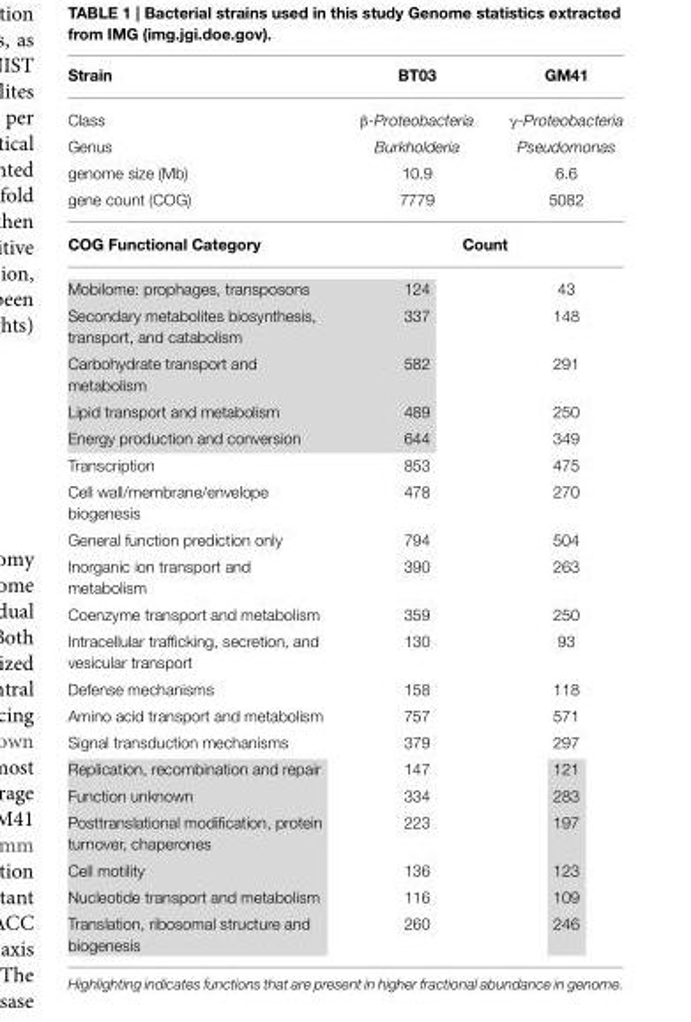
<table><thead><tr><td>Strain</td><td>BT03</td><td>GM41</td></tr></thead><tbody><tr><td>Class</td><td>β-Proteobacteria</td><td>γ-Proteobacteria</td></tr><tr><td>Genus</td><td>Burkholderia</td><td>Pseudomonas</td></tr><tr><td>genome size (Mb)</td><td>10.9</td><td>6.6</td></tr><tr><td>gene count (COG)</td><td>7779</td><td>5082</td></tr><tr><td>COG Functional Category</td><td colspan="2">Count</td></tr><tr><td>Mobilome: prophages, transposons</td><td>124</td><td>43</td></tr><tr><td>Secondary metabolites biosynthesis, transport, and catabolism</td><td>337</td><td>148</td></tr><tr><td>Carbohydrate transport and metabolism</td><td>582</td><td>291</td></tr><tr><td>Lipid transport and metabolism</td><td>489</td><td>250</td></tr><tr><td>Energy production and conversion</td><td>644</td><td>349</td></tr><tr><td>Transcription</td><td>853</td><td>475</td></tr><tr><td>Cell wall/membrane/envelope biogenesis</td><td>478</td><td>270</td></tr><tr><td>General function prediction only</td><td>794</td><td>504</td></tr><tr><td>Inorganic ion transport and metabolism</td><td>390</td><td>263</td></tr><tr><td>Coenzyme transport and metabolism</td><td>359</td><td>250</td></tr><tr><td>Intracellular trafficking, secretion, and vesicular transport</td><td>130</td><td>93</td></tr><tr><td>Defense mechanisms</td><td>158</td><td>118</td></tr><tr><td>Amino acid transport and metabolism</td><td>757</td><td>571</td></tr><tr><td>Signal transduction mechanisms</td><td>379</td><td>297</td></tr><tr><td>Replication, recombination and repair</td><td>147</td><td>121</td></tr><tr><td>Function unknown</td><td>334</td><td>283</td></tr><tr><td>Posttranslational modification, protein turnover, chaperones</td><td>223</td><td>197</td></tr><tr><td>Cell motility</td><td>136</td><td>123</td></tr><tr><td>Nucleotide transport and metabolism</td><td>116</td><td>109</td></tr><tr><td>Translation, ribosomal structure and biogenesis</td><td>260</td><td>246</td></tr></tbody></table>